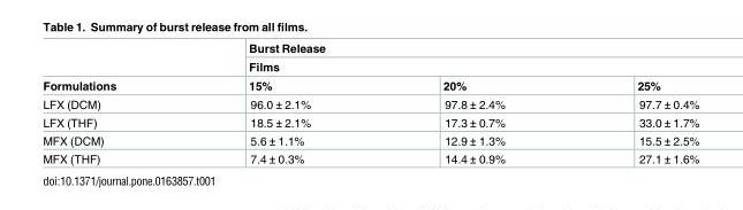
<table><thead><tr><td rowspan="3">Formulations</td><td rowspan="2" colspan="3">Burst Release Films</td></tr><tr></tr><tr><td>15%</td><td>20%</td><td>25%</td></tr></thead><tbody><tr><td>LFX (DCM)</td><td>96.0 ± 2.1%</td><td>97.8 ± 2.4%</td><td>97.7 ± 0.4%</td></tr><tr><td>LFX (THF)</td><td>18.5 ± 2.1%</td><td>17.3 ± 0.7%</td><td>33.0 ± 1.7%</td></tr><tr><td>MFX (DCM)</td><td>5.6 ± 1.1%</td><td>12.9 ± 1.3%</td><td>15.5 ± 2.5%</td></tr><tr><td>MFX (THF)</td><td>7.4 ± 0.3%</td><td>14.4 ± 0.9%</td><td>27.1 ± 1.6%</td></tr></tbody></table>